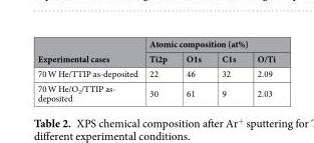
<table><thead><tr><td rowspan="2">Experimental cases</td><td colspan="4">Atomic composition (at%)</td></tr><tr><td>Ti2p</td><td>O1s</td><td>C1s</td><td>O/Ti</td></tr></thead><tbody><tr><td>70 W He/TTIP as-deposited</td><td>22</td><td>46</td><td>32</td><td>2.09</td></tr><tr><td>70 W He/O<sub>2</sub>/TTIP as- deposited</td><td>30</td><td>61</td><td>9</td><td>2.03</td></tr></tbody></table>